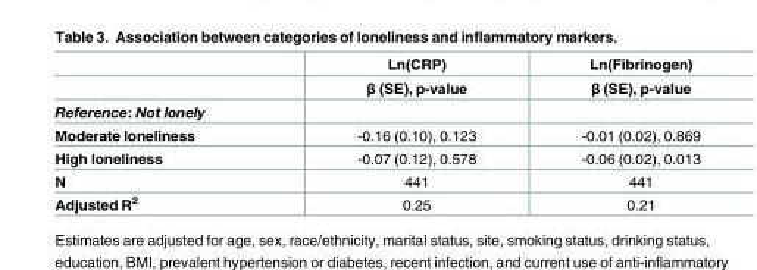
<table><thead><tr><td rowspan="2"></td><td rowspan="2">Ln(CRP) β (SE), p-value</td><td rowspan="2">Ln(Fibrinogen) β (SE), p-value</td></tr><tr></tr></thead><tbody><tr><td colspan="3">Reference: Not lonely</td></tr><tr><td>Moderate loneliness</td><td>-0.16 (0.10), 0.123</td><td>-0.01 (0.02), 0.869</td></tr><tr><td>High loneliness</td><td>-0.07 (0.12), 0.578</td><td>-0.06 (0.02), 0.013</td></tr><tr><td>N</td><td>441</td><td>441</td></tr><tr><td>Adjusted R<sup>2</sup></td><td>0.25</td><td>0.21</td></tr></tbody></table>